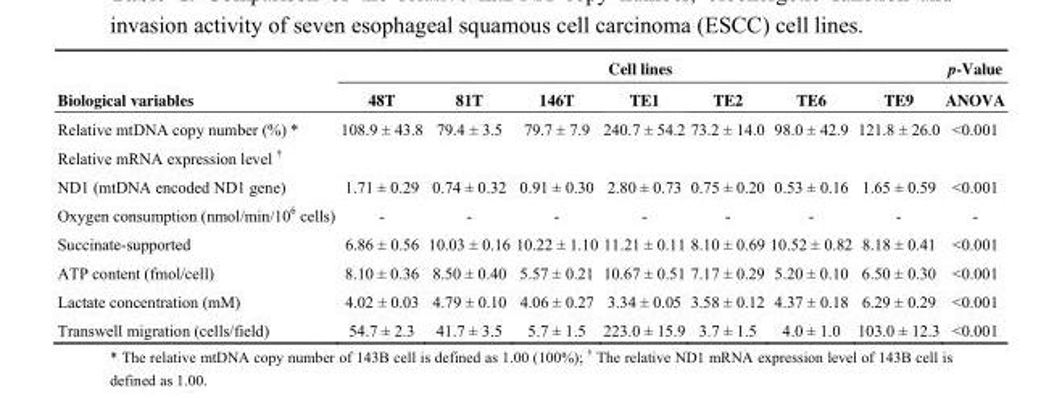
<table><thead><tr><td rowspan="2">Biological variables</td><td colspan="7">Cell lines</td><td rowspan="2">p-Value ANOVA</td></tr><tr><td>48T</td><td>81T</td><td>146T</td><td>TE1</td><td>TE2</td><td>TE6</td><td>TE9</td></tr></thead><tbody><tr><td>Relative mtDNA copy number (%) *</td><td>108.9 ± 43.8</td><td>79.4 ± 3.5</td><td>79.7 ± 7.9</td><td>240.7 ± 54.2</td><td>73.2 ± 14.0</td><td>98.0 ± 42.9</td><td>121.8 ± 26.0</td><td>&lt;0.001</td></tr><tr><td colspan="9">Relative mRNA expression level †</td></tr><tr><td>ND1 (mtDNA encoded ND1 gene)</td><td>1.71 ± 0.29</td><td>0.74 ± 0.32</td><td>0.91 ± 0.30</td><td>2.80 ± 0.73</td><td>0.75 ± 0.20</td><td>0.53 ± 0.16</td><td>1.65 ± 0.59</td><td>&lt;0.001</td></tr><tr><td>Oxygen consumption (nmol/min/10<sup>6</sup> cells)</td><td>-</td><td>-</td><td>-</td><td>-</td><td>-</td><td>-</td><td>-</td><td>-</td></tr><tr><td>Succinate-supported</td><td>6.86 ± 0.56</td><td>10.03 ± 0.16</td><td>10.22 ± 1.10</td><td>11.21 ± 0.11</td><td>8.10 ± 0.69</td><td>10.52 ± 0.82</td><td>8.18 ± 0.41</td><td>&lt;0.001</td></tr><tr><td>ATP content (fmol/cell)</td><td>8.10 ± 0.36</td><td>8.50 ± 0.40</td><td>5.57 ± 0.21</td><td>10.67 ± 0.51</td><td>7.17 ± 0.29</td><td>5.20 ± 0.10</td><td>6.50 ± 0.30</td><td>&lt;0.001</td></tr><tr><td>Lactate concentration (mM)</td><td>4.02 ± 0.03</td><td>4.79 ± 0.10</td><td>4.06 ± 0.27</td><td>3.34 ± 0.05</td><td>3.58 ± 0.12</td><td>4.37 ± 0.18</td><td>6.29 ± 0.29</td><td>&lt;0.001</td></tr><tr><td>Transwell migration (cells/field)</td><td>54.7 ± 2.3</td><td>41.7 ± 3.5</td><td>5.7 ± 1.5</td><td>223.0 ± 15.9</td><td>3.7 ± 1.5</td><td>4.0 ± 1.0</td><td>103.0 ± 12.3</td><td>&lt;0.001</td></tr></tbody></table>